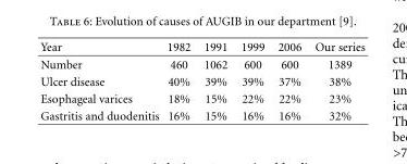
<table><thead><tr><td>Year</td><td>1982</td><td>1991</td><td>1999</td><td>2006</td><td>Our series</td></tr></thead><tbody><tr><td>Number</td><td>460</td><td>1062</td><td>600</td><td>600</td><td>1389</td></tr><tr><td>Ulcer disease</td><td>40%</td><td>39%</td><td>39%</td><td>37%</td><td>38%</td></tr><tr><td>Esophageal varices</td><td>18%</td><td>15%</td><td>22%</td><td>22%</td><td>23%</td></tr><tr><td>Gastritis and duodenitis</td><td>16%</td><td>15%</td><td>16%</td><td>16%</td><td>32%</td></tr></tbody></table>